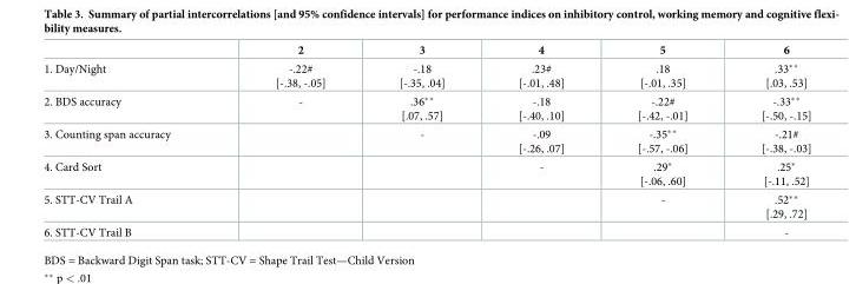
<table><thead><tr><td></td><td>2</td><td>3</td><td>4</td><td>5</td><td>6</td></tr></thead><tbody><tr><td>1. Day/Night</td><td>-.22# [-.38, -.05]</td><td>-.18 [-.35, .04]</td><td>.23# [-.01, .48]</td><td>.18 [-.01, .35]</td><td>.33** [.03, .53]</td></tr><tr><td>2. BDS accuracy</td><td>-</td><td>.36** [.07, .57]</td><td>-.18 [-.40, .10]</td><td>-.22# [-.42, -.01]</td><td>-.33** [-.50, -.15]</td></tr><tr><td>3. Counting span accuracy</td><td></td><td>-</td><td>-.09 [-.26, .07]</td><td>-.35** [-.57, -.06]</td><td>-.21# [-.38, -.03]</td></tr><tr><td>4. Card Sort</td><td></td><td></td><td>-</td><td>.29* [-.06, .60]</td><td>.25* [-.11, .52]</td></tr><tr><td>5. STT-CV Trail A</td><td></td><td></td><td></td><td>-</td><td>.52** [.29, .72]</td></tr><tr><td>6. STT-CV Trail B</td><td></td><td></td><td></td><td></td><td>-</td></tr></tbody></table>